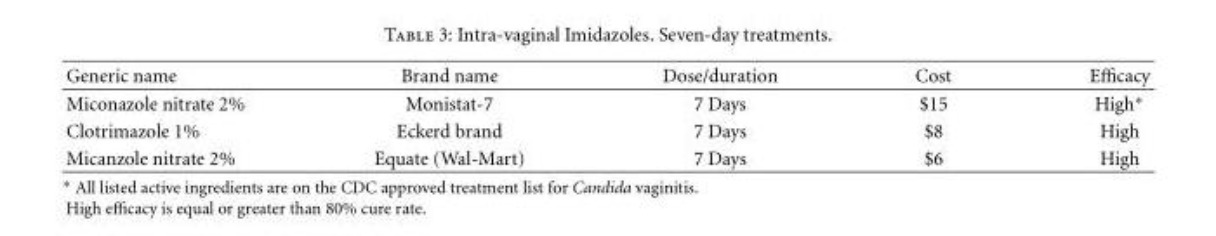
<table><tbody><tr><td>Generic name</td><td>Brand name</td><td>Dose/duration</td><td>Cost</td><td>Efficacy</td></tr><tr><td>Miconazole nitrate 2%</td><td>Monistat-7</td><td>7 Days</td><td>$15</td><td>High∗</td></tr><tr><td>Clotrimazole 1%</td><td>Eckerd brand</td><td>7 Days</td><td>$8</td><td>High</td></tr><tr><td>Micanzole nitrate 2%</td><td>Equate (Wal-Mart)</td><td>7 Days</td><td>$6</td><td>High</td></tr></tbody></table>